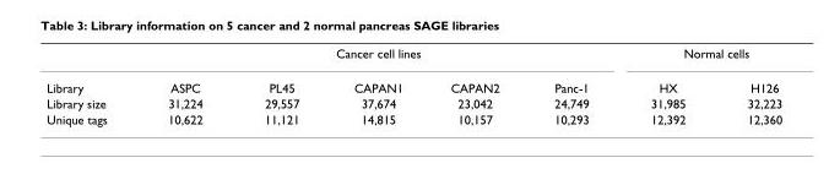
<table><thead><tr><td rowspan="2">Library</td><td colspan="5">Cancer cell lines</td><td colspan="2">Normal cells</td></tr><tr><td>ASPC</td><td>PL45</td><td>CAPAN1</td><td>CAPAN2</td><td>Panc-1</td><td>HX</td><td>H126</td></tr></thead><tbody><tr><td>Library size</td><td>31,224</td><td>29,557</td><td>37,674</td><td>23,042</td><td>24,749</td><td>31,985</td><td>32,223</td></tr><tr><td>Unique tags</td><td>10,622</td><td>11,121</td><td>14,815</td><td>10,157</td><td>10,293</td><td>12,392</td><td>12,360</td></tr></tbody></table>